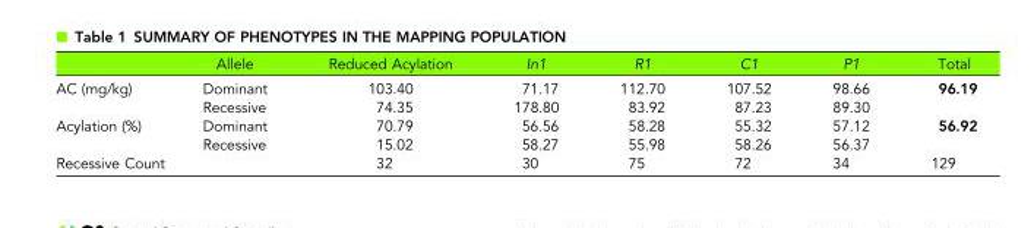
<table><thead><tr><td></td><td>Allele</td><td>Reduced Acylation</td><td>In1</td><td>R1</td><td>C1</td><td>P1</td><td>Total</td></tr></thead><tbody><tr><td rowspan="2">AC (mg/kg)</td><td>Dominant</td><td>103.40</td><td>71.17</td><td>112.70</td><td>107.52</td><td>98.66</td><td>96.19</td></tr><tr><td>Recessive</td><td>74.35</td><td>178.80</td><td>83.92</td><td>87.23</td><td>89.30</td><td></td></tr><tr><td rowspan="2">Acylation (%)</td><td>Dominant</td><td>70.79</td><td>56.56</td><td>58.28</td><td>55.32</td><td>57.12</td><td>56.92</td></tr><tr><td>Recessive</td><td>15.02</td><td>58.27</td><td>55.98</td><td>58.26</td><td>56.37</td><td></td></tr><tr><td colspan="2">Recessive Count</td><td>32</td><td>30</td><td>75</td><td>72</td><td>34</td><td>129</td></tr></tbody></table>